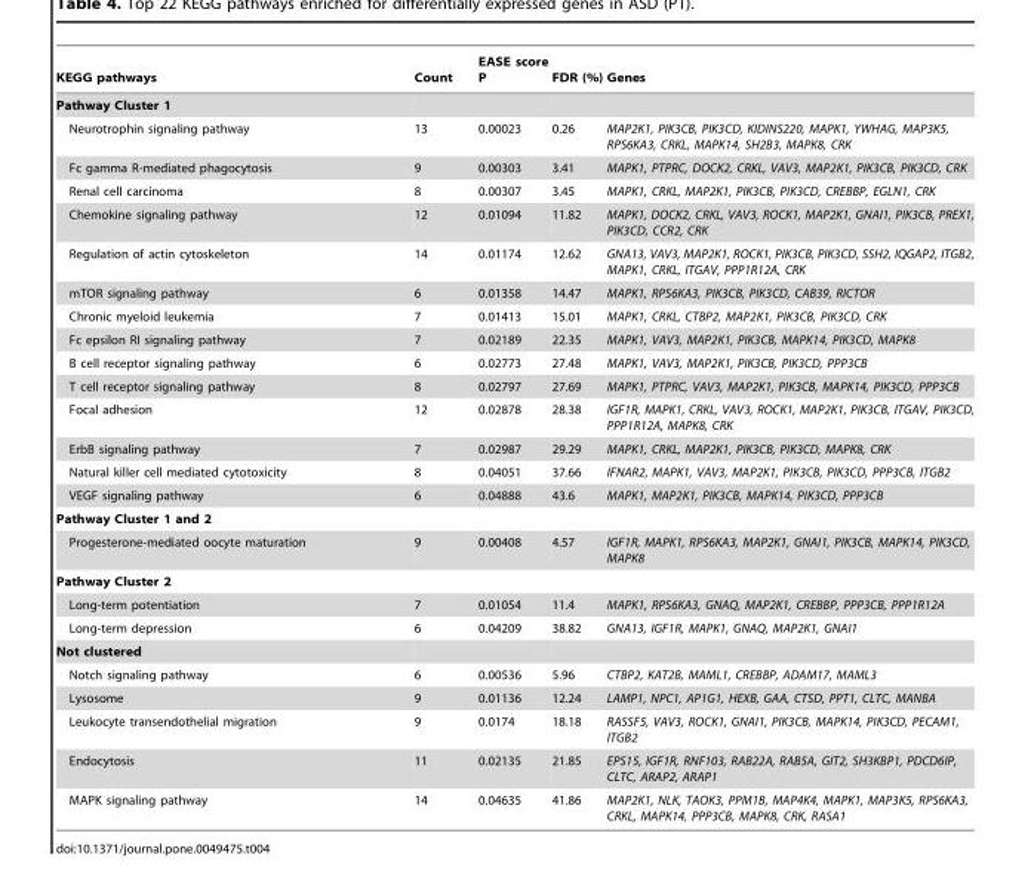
<table><thead><tr><td>KEGG pathways</td><td>Count</td><td>EASE score P</td><td>FDR (%)</td><td>Genes</td></tr></thead><tbody><tr><td colspan="5">Pathway Cluster 1</td></tr><tr><td>Neurotrophin signaling pathway</td><td>13</td><td>0.00023</td><td>0.26</td><td>MAP2K1, PIK3CB, PIK3CD, KIDINS220, MAPK1, YWHAG, MAP3K5, RPS6KA3, CRKL, MAPK14, SH2B3, MAPK8, CRK</td></tr><tr><td>Fc gamma R-mediated phagocytosis</td><td>9</td><td>0.00303</td><td>3.41</td><td>MAPK1, PTPRC, DOCK2, CRKL, VAV3, MAP2K1, PIK3CB, PIK3CD, CRK</td></tr><tr><td>Renal cell carcinoma</td><td>8</td><td>0.00307</td><td>3.45</td><td>MAPK1, CRKL, MAP2K1, PIK3CB, PIK3CD, CREBBP, EGLN1, CRK</td></tr><tr><td>Chemokine signaling pathway</td><td>12</td><td>0.01094</td><td>11.82</td><td>MAPK1, DOCK2, CRKL, VAV3, ROCK1, MAP2K1, GNAI1, PIK3CB, PREX1, PIK3CD, CCR2, CRK</td></tr><tr><td>Regulation of actin cytoskeleton</td><td>14</td><td>0.01174</td><td>12.62</td><td>GNA13, VAV3, MAP2K1, ROCK1, PIK3CB, PIK3CD, SSH2, IQGAP2, ITGB2, MAPK1, CRKL, ITGAV, PPP1R12A, CRK</td></tr><tr><td>mTOR signaling pathway</td><td>6</td><td>0.01358</td><td>14.47</td><td>MAPK1, RPS6KA3, PIK3CB, PIK3CD, CAB39, RICTOR</td></tr><tr><td>Chronic myeloid leukemia</td><td>7</td><td>0.01413</td><td>15.01</td><td>MAPK1, CRKL, CTBP2, MAP2K1, PIK3CB, PIK3CD, CRK</td></tr><tr><td>Fc epsilon RI signaling pathway</td><td>7</td><td>0.02189</td><td>22.35</td><td>MAPK1, VAV3, MAP2K1, PIK3CB, MAPK14, PIK3CD, MAPK8</td></tr><tr><td>B cell receptor signaling pathway</td><td>6</td><td>0.02773</td><td>27.48</td><td>MAPK1, VAV3, MAP2K1, PIK3CB, PIK3CD, PPP3CB</td></tr><tr><td>T cell receptor signaling pathway</td><td>8</td><td>0.02797</td><td>27.69</td><td>MAPK1, PTPRC, VAV3, MAP2K1, PIK3CB, MAPK14, PIK3CD, PPP3CB</td></tr><tr><td>Focal adhesion</td><td>12</td><td>0.02878</td><td>28.38</td><td>IGF1R, MAPK1, CRKL, VAV3, ROCK1, MAP2K1, PIK3CB, ITGAV, PIK3CD, PPP1R12A, MAPK8, CRK</td></tr><tr><td>ErbB signaling pathway</td><td>7</td><td>0.02987</td><td>29.29</td><td>MAPK1, CRKL, MAP2K1, PIK3CB, PIK3CD, MAPK8, CRK</td></tr><tr><td>Natural killer cell mediated cytotoxicity</td><td>8</td><td>0.04051</td><td>37.66</td><td>IFNAR2, MAPK1, VAV3, MAP2K1, PIK3CB, PIK3CD, PPP3CB, ITGB2</td></tr><tr><td>VEGF signaling pathway</td><td>6</td><td>0.04888</td><td>43.6</td><td>MAPK1, MAP2K1, PIK3CB, MAPK14, PIK3CD, PPP3CB</td></tr><tr><td colspan="5">Pathway Cluster 1 and 2</td></tr><tr><td>Progesterone-mediated oocyte maturation</td><td>9</td><td>0.00408</td><td>4.57</td><td>IGF1R, MAPK1, RPS6KA3, MAP2K1, GNAI1, PIK3CB, MAPK14, PIK3CD, MAPK8</td></tr><tr><td colspan="5">Pathway Cluster 2</td></tr><tr><td>Long-term potentiation</td><td>7</td><td>0.01054</td><td>11.4</td><td>MAPK1, RPS6KA3, GNAQ, MAP2K1, CREBBP, PPP3CB, PPP1R12A</td></tr><tr><td>Long-term depression</td><td>6</td><td>0.04209</td><td>38.82</td><td>GNA13, IGF1R, MAPK1, GNAQ, MAP2K1, GNAI1</td></tr><tr><td colspan="5">Not clustered</td></tr><tr><td>Notch signaling pathway</td><td>6</td><td>0.00536</td><td>5.96</td><td>CTBP2, KAT2B, MAML1, CREBBP, ADAM17, MAML3</td></tr><tr><td>Lysosome</td><td>9</td><td>0.01136</td><td>12.24</td><td>LAMP1, NPC1, AP1G1, HEXB, GAA, CTSD, PPT1, CLTC, MANBA</td></tr><tr><td>Leukocyte transendothelial migration</td><td>9</td><td>0.0174</td><td>18.18</td><td>RASSF5, VAV3, ROCK1, GNAI1, PIK3CB, MAPK14, PIK3CD, PECAM1, ITGB2</td></tr><tr><td>Endocytosis</td><td>11</td><td>0.02135</td><td>21.85</td><td>EPS15, IGF1R, RNF103, RAB22A, RAB5A, GIT2, SH3KBP1, PDCD6IP, CLTC, ARAP2, ARAP1</td></tr><tr><td>MAPK signaling pathway</td><td>14</td><td>0.04635</td><td>41.86</td><td>MAP2K1, NLK, TAOK3, PPM1B, MAP4K4, MAPK1, MAP3K5, RPS6KA3, CRKL, MAPK14, PPP3CB, MAPK8, CRK, RASA1</td></tr></tbody></table>